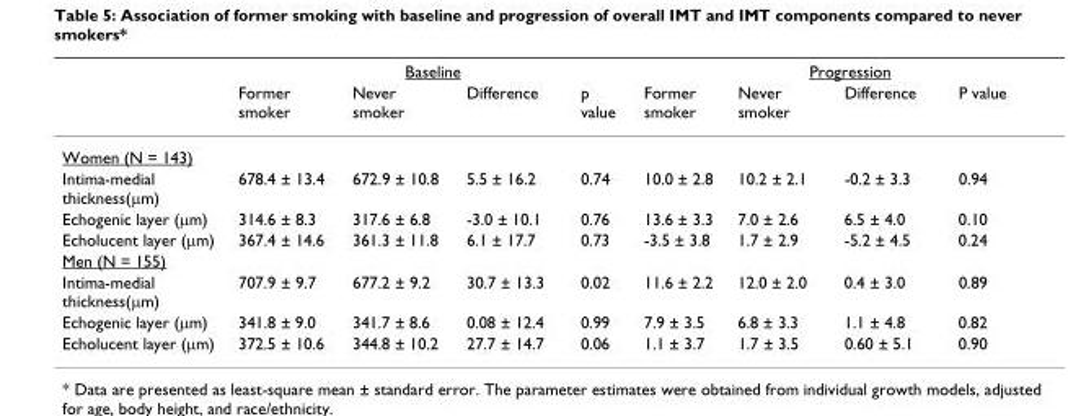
<table><thead><tr><td rowspan="2"></td><td colspan="4">Baseline</td><td colspan="4">Progression</td></tr><tr><td>Former smoker</td><td>Never smoker</td><td>Difference</td><td>p value</td><td>Former smoker</td><td>Never smoker</td><td>Difference</td><td>P value</td></tr></thead><tbody><tr><td colspan="9">Women (N = 143)</td></tr><tr><td>Intima-medial thickness(µm)</td><td>678.4 ± 13.4</td><td>672.9 ± 10.8</td><td>5.5 ± 16.2</td><td>0.74</td><td>10.0 ± 2.8</td><td>10.2 ± 2.1</td><td>-0.2 ± 3.3</td><td>0.94</td></tr><tr><td>Echogenic layer (µm)</td><td>314.6 ± 8.3</td><td>317.6 ± 6.8</td><td>-3.0 ± 10.1</td><td>0.76</td><td>13.6 ± 3.3</td><td>7.0 ± 2.6</td><td>6.5 ± 4.0</td><td>0.10</td></tr><tr><td>Echolucent layer (µm)</td><td>367.4 ± 14.6</td><td>361.3 ± 11.8</td><td>6.1 ± 17.7</td><td>0.73</td><td>-3.5 ± 3.8</td><td>1.7 ± 2.9</td><td>-5.2 ± 4.5</td><td>0.24</td></tr><tr><td colspan="9">Men (N = 155)</td></tr><tr><td>Intima-medial thickness(µm)</td><td>707.9 ± 9.7</td><td>677.2 ± 9.2</td><td>30.7 ± 13.3</td><td>0.02</td><td>11.6 ± 2.2</td><td>12.0 ± 2.0</td><td>0.4 ± 3.0</td><td>0.89</td></tr><tr><td>Echogenic layer (µm)</td><td>341.8 ± 9.0</td><td>341.7 ± 8.6</td><td>0.08 ± 12.4</td><td>0.99</td><td>7.9 ± 3.5</td><td>6.8 ± 3.3</td><td>1.1 ± 4.8</td><td>0.82</td></tr><tr><td>Echolucent layer (µm)</td><td>372.5 ± 10.6</td><td>344.8 ± 10.2</td><td>27.7 ± 14.7</td><td>0.06</td><td>1.1 ± 3.7</td><td>1.7 ± 3.5</td><td>0.60 ± 5.1</td><td>0.90</td></tr></tbody></table>